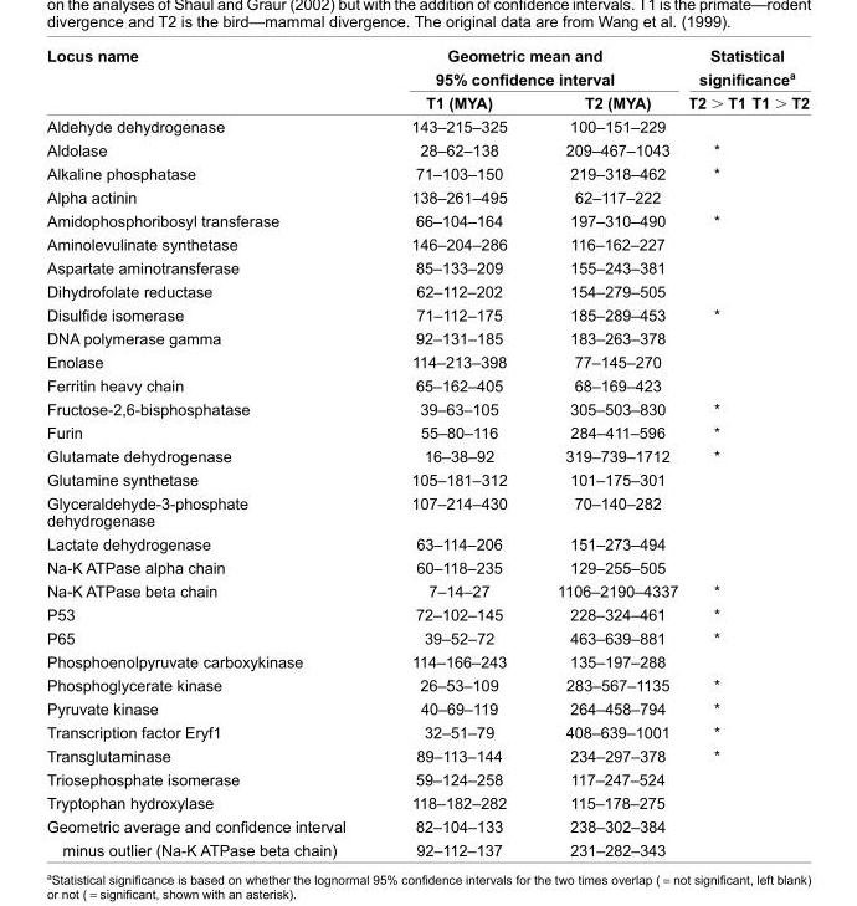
<table><thead><tr><td rowspan="2">Locus name</td><td colspan="2">Geometric mean and 95% confi dence interval</td><td colspan="2">Statistical signifi cance<sup>a</sup></td></tr><tr><td>T1 (MYA)</td><td>T2 (MYA)</td><td>T2 &gt; T1</td><td>T1 &gt; T2</td></tr></thead><tbody><tr><td>Aldehyde dehydrogenase</td><td>143–215–325</td><td>100–151–229</td><td></td><td></td></tr><tr><td>Aldolase</td><td>28–62–138</td><td>209–467–1043</td><td>*</td><td></td></tr><tr><td>Alkaline phosphatase</td><td>71–103–150</td><td>219–318–462</td><td>*</td><td></td></tr><tr><td>Alpha actinin</td><td>138–261–495</td><td>62–117–222</td><td></td><td></td></tr><tr><td>Amidophosphoribosyl transferase</td><td>66–104–164</td><td>197–310–490</td><td>*</td><td></td></tr><tr><td>Aminolevulinate synthetase</td><td>146–204–286</td><td>116–162–227</td><td></td><td></td></tr><tr><td>Aspartate aminotransferase</td><td>85–133–209</td><td>155–243–381</td><td></td><td></td></tr><tr><td>Dihydrofolate reductase</td><td>62–112–202</td><td>154–279–505</td><td></td><td></td></tr><tr><td>Disulfi de isomerase</td><td>71–112–175</td><td>185–289–453</td><td>*</td><td></td></tr><tr><td>DNA polymerase gamma</td><td>92–131–185</td><td>183–263–378</td><td></td><td></td></tr><tr><td>Enolase</td><td>114–213–398</td><td>77–145–270</td><td></td><td></td></tr><tr><td>Ferritin heavy chain</td><td>65–162–405</td><td>68–169–423</td><td></td><td></td></tr><tr><td>Fructose-2,6-bisphosphatase</td><td>39–63–105</td><td>305–503–830</td><td>*</td><td></td></tr><tr><td>Furin</td><td>55–80–116</td><td>284–411–596</td><td>*</td><td></td></tr><tr><td>Glutamate dehydrogenase</td><td>16–38–92</td><td>319–739–1712</td><td>*</td><td></td></tr><tr><td>Glutamine synthetase</td><td>105–181–312</td><td>101–175–301</td><td></td><td></td></tr><tr><td>Glyceraldehyde-3-phosphate dehydrogenase</td><td>107–214–430</td><td>70–140–282</td><td></td><td></td></tr><tr><td>Lactate dehydrogenase</td><td>63–114–206</td><td>151–273–494</td><td></td><td></td></tr><tr><td>Na-K ATPase alpha chain</td><td>60–118–235</td><td>129–255–505</td><td></td><td></td></tr><tr><td>Na-K ATPase beta chain</td><td>7–14–27</td><td>1106–2190–4337</td><td>*</td><td></td></tr><tr><td>P53</td><td>72–102–145</td><td>228–324–461</td><td>*</td><td></td></tr><tr><td>P65</td><td>39–52–72</td><td>463–639–881</td><td>*</td><td></td></tr><tr><td>Phosphoenolpyruvate carboxykinase</td><td>114–166–243</td><td>135–197–288</td><td></td><td></td></tr><tr><td>Phosphoglycerate kinase</td><td>26–53–109</td><td>283–567–1135</td><td>*</td><td></td></tr><tr><td>Pyruvate kinase</td><td>40–69–119</td><td>264–458–794</td><td>*</td><td></td></tr><tr><td>Transcription factor Eryf1</td><td>32–51–79</td><td>408–639–1001</td><td>*</td><td></td></tr><tr><td>Transglutaminase</td><td>89–113–144</td><td>234–297–378</td><td>*</td><td></td></tr><tr><td>Triosephosphate isomerase</td><td>59–124–258</td><td>117–247–524</td><td></td><td></td></tr><tr><td>Tryptophan hydroxylase</td><td>118–182–282</td><td>115–178–275</td><td></td><td></td></tr><tr><td>Geometric average and confi dence interval</td><td>82–104–133</td><td>238–302–384</td><td></td><td></td></tr><tr><td>minus outlier (Na-K ATPase beta chain)</td><td>92–112–137</td><td>231–282–343</td><td></td><td></td></tr></tbody></table>